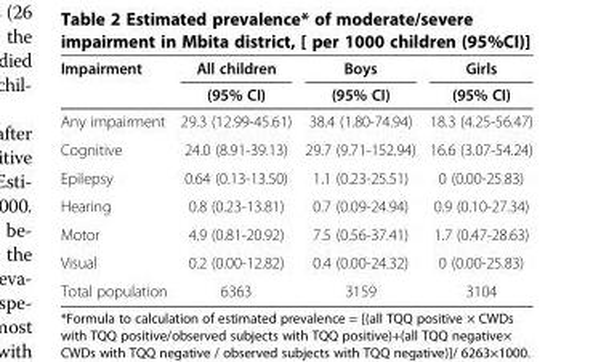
<table><thead><tr><td rowspan="2">Impairment</td><td rowspan="2">All children (95% CI)</td><td rowspan="2">Boys (95% CI)</td><td rowspan="2">Girls (95% CI)</td></tr><tr></tr></thead><tbody><tr><td>Any impairment</td><td>29.3 (12.99-45.61)</td><td>38.4 (1.80-74.94)</td><td>18.3 (4.25-56.47)</td></tr><tr><td>Cognitive</td><td>24.0 (8.91-39.13)</td><td>29.7 (9.71-152.94)</td><td>16.6 (3.07-54.24)</td></tr><tr><td>Epilepsy</td><td>0.64 (0.13-13.50)</td><td>1.1 (0.23-25.51)</td><td>0 (0.00-25.83)</td></tr><tr><td>Hearing</td><td>0.8 (0.23-13.81)</td><td>0.7 (0.09-24.94)</td><td>0.9 (0.10-27.34)</td></tr><tr><td>Motor</td><td>4.9 (0.81-20.92)</td><td>7.5 (0.56-37.41)</td><td>1.7 (0.47-28.63)</td></tr><tr><td>Visual</td><td>0.2 (0.00-12.82)</td><td>0.4 (0.00-24.32)</td><td>0 (0.00-25.83)</td></tr><tr><td>Total population</td><td>6363</td><td>3159</td><td>3104</td></tr></tbody></table>